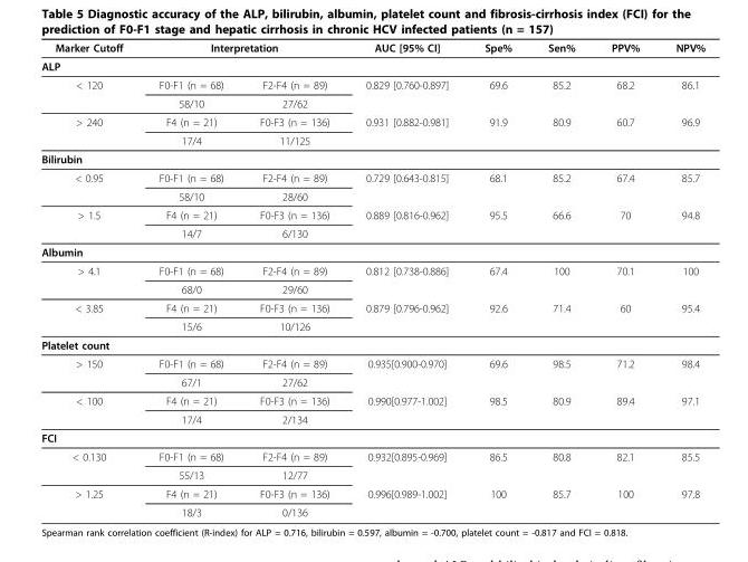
<table><thead><tr><td>Marker Cutoff</td><td colspan="2">Interpretation</td><td>AUC [95% CI]</td><td>Spe%</td><td>Sen%</td><td>PPV%</td><td>NPV%</td></tr><tr><td colspan="8">ALP</td></tr><tr><td>&lt; 120</td><td>F0-F1 (n = 68)</td><td>F2-F4 (n = 89)</td><td>0.829 [0.760-0.897]</td><td>69.6</td><td>85.2</td><td>68.2</td><td>86.1</td></tr></thead><tbody><tr><td></td><td>58/10</td><td>27/62</td><td></td><td></td><td></td><td></td><td></td></tr><tr><td rowspan="2">&gt; 240</td><td>F4 (n = 21)</td><td>F0-F3 (n = 136)</td><td>0.931 [0.882-0.981]</td><td>91.9</td><td>80.9</td><td>60.7</td><td>96.9</td></tr><tr><td>17/4</td><td>11/125</td><td></td><td></td><td></td><td></td><td></td></tr><tr><td colspan="8">Bilirubin</td></tr><tr><td rowspan="2">&lt; 0.95</td><td>F0-F1 (n = 68)</td><td>F2-F4 (n = 89)</td><td>0.729 [0.643-0.815]</td><td>68.1</td><td>85.2</td><td>67.4</td><td>85.7</td></tr><tr><td>58/10</td><td>28/60</td><td></td><td></td><td></td><td></td><td></td></tr><tr><td rowspan="2">&gt; 1.5</td><td>F4 (n = 21)</td><td>F0-F3 (n = 136)</td><td>0.889 [0.816-0.962]</td><td>95.5</td><td>66.6</td><td>70</td><td>94.8</td></tr><tr><td>14/7</td><td>6/130</td><td></td><td></td><td></td><td></td><td></td></tr><tr><td colspan="8">Albumin</td></tr><tr><td rowspan="2">&gt; 4.1</td><td>F0-F1 (n = 68)</td><td>F2-F4 (n = 89)</td><td>0.812 [0.738-0.886]</td><td>67.4</td><td>100</td><td>70.1</td><td>100</td></tr><tr><td>68/0</td><td>29/60</td><td></td><td></td><td></td><td></td><td></td></tr><tr><td rowspan="2">&lt; 3.85</td><td>F4 (n = 21)</td><td>F0-F3 (n = 136)</td><td>0.879 [0.796-0.962]</td><td>92.6</td><td>71.4</td><td>60</td><td>95.4</td></tr><tr><td>15/6</td><td>10/126</td><td></td><td></td><td></td><td></td><td></td></tr><tr><td colspan="8">Platelet count</td></tr><tr><td rowspan="2">&gt; 150</td><td>F0-F1 (n = 68)</td><td>F2-F4 (n = 89)</td><td>0.935[0.900-0.970]</td><td>69.6</td><td>98.5</td><td>71.2</td><td>98.4</td></tr><tr><td>67/1</td><td>27/62</td><td></td><td></td><td></td><td></td><td></td></tr><tr><td rowspan="2">&lt; 100</td><td>F4 (n = 21)</td><td>F0-F3 (n = 136)</td><td>0.990[0.977-1.002]</td><td>98.5</td><td>80.9</td><td>89.4</td><td>97.1</td></tr><tr><td>17/4</td><td>2/134</td><td></td><td></td><td></td><td></td><td></td></tr><tr><td colspan="8">FCI</td></tr><tr><td rowspan="2">&lt; 0.130</td><td>F0-F1 (n = 68)</td><td>F2-F4 (n = 89)</td><td>0.932[0.895-0.969]</td><td>86.5</td><td>80.8</td><td>82.1</td><td>85.5</td></tr><tr><td>55/13</td><td>12/77</td><td></td><td></td><td></td><td></td><td></td></tr><tr><td rowspan="2">&gt; 1.25</td><td>F4 (n = 21)</td><td>F0-F3 (n = 136)</td><td>0.996[0.989-1.002]</td><td>100</td><td>85.7</td><td>100</td><td>97.8</td></tr><tr><td>18/3</td><td>0/136</td><td></td><td></td><td></td><td></td><td></td></tr></tbody></table>